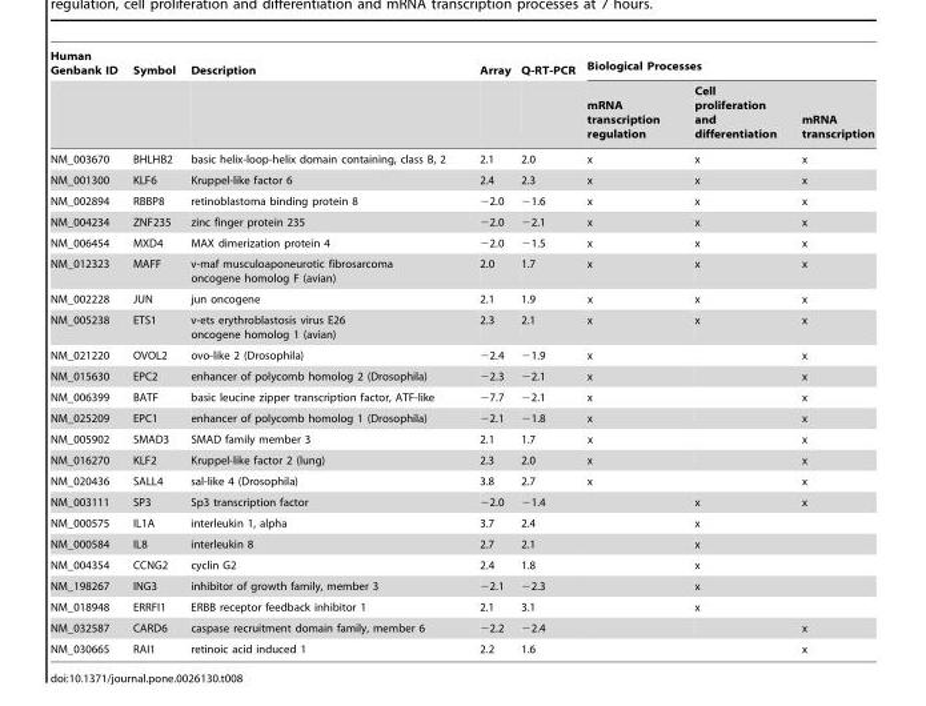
<table><thead><tr><td rowspan="2">Human Genbank ID</td><td rowspan="2">Symbol</td><td rowspan="2">Description</td><td rowspan="2">Array</td><td rowspan="2">Q-RT-PCR</td><td colspan="3">Biological Processes</td></tr><tr><td>mRNA transcription regulation</td><td>Cell proliferation and differentiation</td><td>mRNA transcription</td></tr></thead><tbody><tr><td>NM_003670</td><td>BHLHB2</td><td>basic helix-loop-helix domain containing, class B, 2</td><td>2.1</td><td>2.0</td><td>x</td><td>x</td><td>x</td></tr><tr><td>NM_001300</td><td>KLF6</td><td>Kruppel-like factor 6</td><td>2.4</td><td>2.3</td><td>x</td><td>x</td><td>x</td></tr><tr><td>NM_002894</td><td>RBBP8</td><td>retinoblastoma binding protein 8</td><td>−2.0</td><td>−1.6</td><td>x</td><td>x</td><td>x</td></tr><tr><td>NM_004234</td><td>ZNF235</td><td>zinc finger protein 235</td><td>−2.0</td><td>−2.1</td><td>x</td><td>x</td><td>x</td></tr><tr><td>NM_006454</td><td>MXD4</td><td>MAX dimerization protein 4</td><td>−2.0</td><td>−1.5</td><td>x</td><td>x</td><td>x</td></tr><tr><td>NM_012323</td><td>MAFF</td><td>v-maf musculoaponeurotic fibrosarcoma oncogene homolog F (avian)</td><td>2.0</td><td>1.7</td><td>x</td><td>x</td><td>x</td></tr><tr><td>NM_002228</td><td>JUN</td><td>jun oncogene</td><td>2.1</td><td>1.9</td><td>x</td><td>x</td><td>x</td></tr><tr><td>NM_005238</td><td>ETS1</td><td>v-ets erythroblastosis virus E26 oncogene homolog 1 (avian)</td><td>2.3</td><td>2.1</td><td>x</td><td>x</td><td>x</td></tr><tr><td>NM_021220</td><td>OVOL2</td><td>ovo-like 2 (Drosophila)</td><td>−2.4</td><td>−1.9</td><td>x</td><td></td><td>x</td></tr><tr><td>NM_015630</td><td>EPC2</td><td>enhancer of polycomb homolog 2 (Drosophila)</td><td>−2.3</td><td>−2.1</td><td>x</td><td></td><td>x</td></tr><tr><td>NM_006399</td><td>BATF</td><td>basic leucine zipper transcription factor, ATF-like</td><td>−7.7</td><td>−2.1</td><td>x</td><td></td><td>x</td></tr><tr><td>NM_025209</td><td>EPC1</td><td>enhancer of polycomb homolog 1 (Drosophila)</td><td>−2.1</td><td>−1.8</td><td>x</td><td></td><td>x</td></tr><tr><td>NM_005902</td><td>SMAD3</td><td>SMAD family member 3</td><td>2.1</td><td>1.7</td><td>x</td><td></td><td>x</td></tr><tr><td>NM_016270</td><td>KLF2</td><td>Kruppel-like factor 2 (lung)</td><td>2.3</td><td>2.0</td><td>x</td><td></td><td>x</td></tr><tr><td>NM_020436</td><td>SALL4</td><td>sal-like 4 (Drosophila)</td><td>3.8</td><td>2.7</td><td>x</td><td></td><td>x</td></tr><tr><td>NM_003111</td><td>SP3</td><td>Sp3 transcription factor</td><td>−2.0</td><td>−1.4</td><td></td><td>x</td><td>x</td></tr><tr><td>NM_000575</td><td>IL1A</td><td>interleukin 1, alpha</td><td>3.7</td><td>2.4</td><td></td><td>x</td><td></td></tr><tr><td>NM_000584</td><td>IL8</td><td>interleukin 8</td><td>2.7</td><td>2.1</td><td></td><td>x</td><td></td></tr><tr><td>NM_004354</td><td>CCNG2</td><td>cyclin G2</td><td>2.4</td><td>1.8</td><td></td><td>x</td><td></td></tr><tr><td>NM_198267</td><td>ING3</td><td>inhibitor of growth family, member 3</td><td>−2.1</td><td>−2.3</td><td></td><td>x</td><td></td></tr><tr><td>NM_018948</td><td>ERRFI1</td><td>ERBB receptor feedback inhibitor 1</td><td>2.1</td><td>3.1</td><td></td><td>x</td><td></td></tr><tr><td>NM_032587</td><td>CARD6</td><td>caspase recruitment domain family, member 6</td><td>−2.2</td><td>−2.4</td><td></td><td></td><td>x</td></tr><tr><td>NM_030665</td><td>RAI1</td><td>retinoic acid induced 1</td><td>2.2</td><td>1.6</td><td></td><td></td><td>x</td></tr></tbody></table>